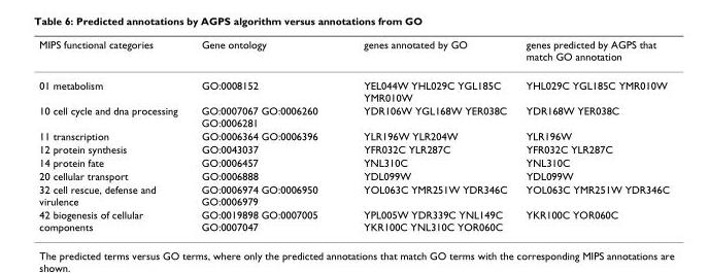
<table><thead><tr><td>MIPS functional categories</td><td>Gene ontology</td><td>genes annotated by GO</td><td>genes predicted by AGPS that match GO annotation</td></tr></thead><tbody><tr><td>01 metabolism</td><td>GO:0008152</td><td>YEL044W YHL029C YGL185C YMR010W</td><td>YHL029C YGL185C YMR010W</td></tr><tr><td>10 cell cycle and dna processing</td><td>GO:0007067 GO:0006260 GO:0006281</td><td>YDR106W YGL168W YER038C</td><td>YDR168W YER038C</td></tr><tr><td>11 transcription</td><td>GO:0006364 GO:0006396</td><td>YLR196W YLR204W</td><td>YLR196W</td></tr><tr><td>12 protein synthesis</td><td>GO:0043037</td><td>YFR032C YLR287C</td><td>YFR032C YLR287C</td></tr><tr><td>14 protein fate</td><td>GO:0006457</td><td>YNL310C</td><td>YNL310C</td></tr><tr><td>20 cellular transport</td><td>GO:0006888</td><td>YDL099W</td><td>YDL099W</td></tr><tr><td>32 cell rescue, defense and virulence</td><td>GO:0006974 GO:0006950 GO:0006979</td><td>YOL063C YMR251W YDR346C</td><td>YOL063C YMR251W YDR346C</td></tr><tr><td>42 biogenesis of cellular components</td><td>GO:0019898 GO:0007005 GO:0007047</td><td>YPL005W YDR339C YNL149C YKR100C YNL310C YOR060C</td><td>YKR100C YOR060C</td></tr></tbody></table>